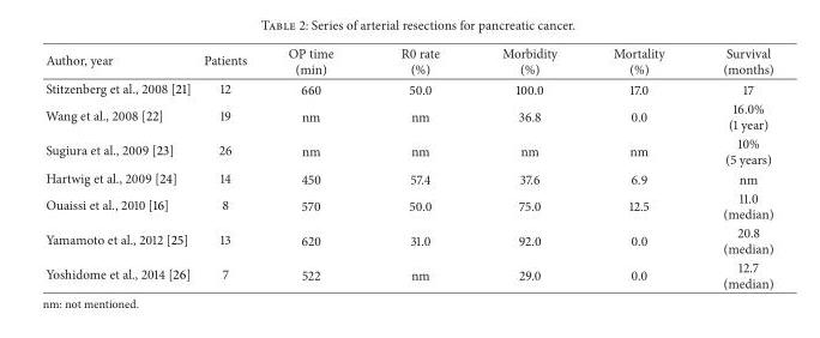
<table><thead><tr><td>Author, year</td><td>Patients</td><td>OP time (min)</td><td>R0 rate (%)</td><td>Morbidity (%)</td><td>Mortality (%)</td><td>Survival (months)</td></tr></thead><tbody><tr><td>Stitzenberg et al., 2008 [21]</td><td>12</td><td>660</td><td>50.0</td><td>100.0</td><td>17.0</td><td>17</td></tr><tr><td>Wang et al., 2008 [22]</td><td>19</td><td>nm</td><td>nm</td><td>36.8</td><td>0.0</td><td>16.0% (1 year)</td></tr><tr><td>Sugiura et al., 2009 [23]</td><td>26</td><td>nm</td><td>nm</td><td>nm</td><td>nm</td><td>10% (5 years)</td></tr><tr><td>Hartwig et al., 2009 [24]</td><td>14</td><td>450</td><td>57.4</td><td>37.6</td><td>6.9</td><td>nm</td></tr><tr><td>Ouaissi et al., 2010 [16]</td><td>8</td><td>570</td><td>50.0</td><td>75.0</td><td>12.5</td><td>11.0 (median)</td></tr><tr><td>Yamamoto et al., 2012 [25]</td><td>13</td><td>620</td><td>31.0</td><td>92.0</td><td>0.0</td><td>20.8 (median)</td></tr><tr><td>Yoshidome et al., 2014 [26]</td><td>7</td><td>522</td><td>nm</td><td>29.0</td><td>0.0</td><td>12.7 (median)</td></tr></tbody></table>